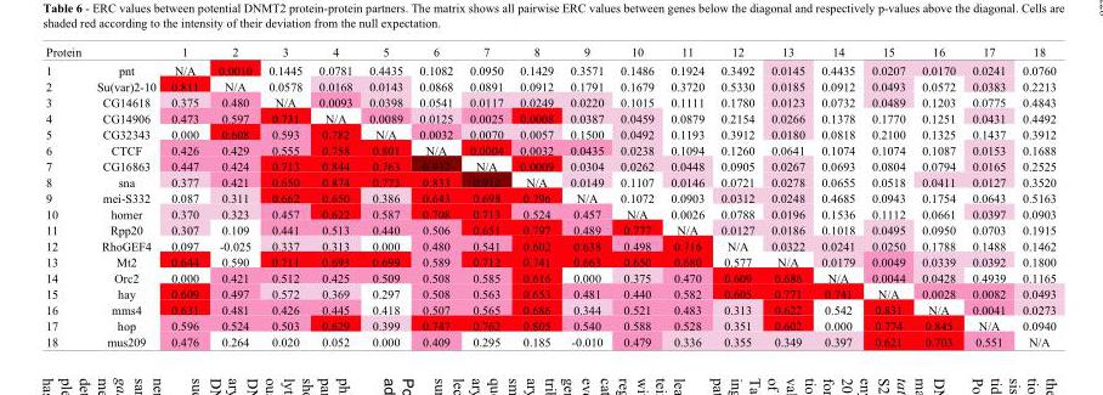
<table><thead><tr><td>Protein</td><td></td><td>1</td><td>2</td><td>3</td><td>4</td><td>5</td><td>6</td><td>7</td><td>8</td><td>9</td><td>10</td><td>11</td><td>12</td><td>13</td><td>14</td><td>15</td><td>16</td><td>17</td><td>18</td></tr></thead><tbody><tr><td>1</td><td>pnt</td><td>N/A</td><td>0.0010</td><td>0.1445</td><td>0.0781</td><td>0.4435</td><td>0.1082</td><td>0.0950</td><td>0.1429</td><td>0.3571</td><td>0.1486</td><td>0.1924</td><td>0.3492</td><td>0.0145</td><td>0.4435</td><td>0.0207</td><td>0.0170</td><td>0.0241</td><td>0.0760</td></tr><tr><td>2</td><td>Su(var)2-10</td><td>0.811</td><td>N/A</td><td>0.0578</td><td>0.0168</td><td>0.0143</td><td>0.0868</td><td>0.0891</td><td>0.0912</td><td>0.1791</td><td>0.1679</td><td>0.3720</td><td>0.5330</td><td>0.0185</td><td>0.0912</td><td>0.0493</td><td>0.0572</td><td>0.0383</td><td>0.2213</td></tr><tr><td>3</td><td>CG14618</td><td>0.375</td><td>0.480</td><td>N/A</td><td>0.0093</td><td>0.0398</td><td>0.0541</td><td>0.0117</td><td>0.0249</td><td>0.0220</td><td>0.1015</td><td>0.1111</td><td>0.1780</td><td>0.0123</td><td>0.0732</td><td>0.0489</td><td>0.1203</td><td>0.0775</td><td>0.4843</td></tr><tr><td>4</td><td>CG14906</td><td>0.473</td><td>0.597</td><td>0.731</td><td>N/A</td><td>0.0089</td><td>0.0125</td><td>0.0025</td><td>0.0008</td><td>0.0387</td><td>0.0459</td><td>0.0879</td><td>0.2154</td><td>0.0266</td><td>0.1378</td><td>0.1770</td><td>0.1251</td><td>0.0431</td><td>0.4492</td></tr><tr><td>5</td><td>CG32343</td><td>0.000</td><td>0.608</td><td>0.593</td><td>0.782</td><td>N/A</td><td>0.0032</td><td>0.0070</td><td>0.0057</td><td>0.1500</td><td>0.0492</td><td>0.1193</td><td>0.3912</td><td>0.0180</td><td>0.0818</td><td>0.2100</td><td>0.1325</td><td>0.1437</td><td>0.3912</td></tr><tr><td>6</td><td>CTCF</td><td>0.426</td><td>0.429</td><td>0.555</td><td>0.758</td><td>0.801</td><td>N/A</td><td>0.0004</td><td>0.0032</td><td>0.0435</td><td>0.0238</td><td>0.1094</td><td>0.1260</td><td>0.0641</td><td>0.1074</td><td>0.1074</td><td>0.1087</td><td>0.0153</td><td>0.1688</td></tr><tr><td>7</td><td>CG16863</td><td>0.447</td><td>0.424</td><td>0.713</td><td>0.844</td><td>0.763</td><td>0.932</td><td>N/A</td><td>0.0009</td><td>0.0304</td><td>0.0262</td><td>0.0448</td><td>0.0905</td><td>0.0267</td><td>0.0693</td><td>0.0804</td><td>0.0794</td><td>0.0165</td><td>0.2525</td></tr><tr><td>8</td><td>sna</td><td>0.377</td><td>0.421</td><td>0.650</td><td>0.874</td><td>0.773</td><td>0.833</td><td>0.912</td><td>N/A</td><td>0.0149</td><td>0.1107</td><td>0.0146</td><td>0.0721</td><td>0.0278</td><td>0.0655</td><td>0.0518</td><td>0.0411</td><td>0.0127</td><td>0.3520</td></tr><tr><td>9</td><td>mei-S332</td><td>0.087</td><td>0.311</td><td>0.662</td><td>0.650</td><td>0.386</td><td>0.643</td><td>0.698</td><td>0.796</td><td>N/A</td><td>0.1072</td><td>0.0903</td><td>0.0312</td><td>0.0248</td><td>0.4685</td><td>0.0943</td><td>0.1754</td><td>0.0643</td><td>0.5163</td></tr><tr><td>10</td><td>homer</td><td>0.370</td><td>0.323</td><td>0.457</td><td>0.622</td><td>0.587</td><td>0.708</td><td>0.713</td><td>0.524</td><td>0.457</td><td>N/A</td><td>0.0026</td><td>0.0788</td><td>0.0196</td><td>0.1536</td><td>0.1112</td><td>0.0661</td><td>0.0397</td><td>0.0903</td></tr><tr><td>11</td><td>Rpp20</td><td>0.307</td><td>0.109</td><td>0.441</td><td>0.513</td><td>0.440</td><td>0.506</td><td>0.651</td><td>0.797</td><td>0.489</td><td>0.777</td><td>N/A</td><td>0.0127</td><td>0.0186</td><td>0.1018</td><td>0.0495</td><td>0.0950</td><td>0.0703</td><td>0.1915</td></tr><tr><td>12</td><td>RhoGEF4</td><td>0.097</td><td>-0.025</td><td>0.337</td><td>0.313</td><td>0.000</td><td>0.480</td><td>0.541</td><td>0.602</td><td>0.638</td><td>0.498</td><td>0.716</td><td>N/A</td><td>0.0322</td><td>0.0241</td><td>0.0250</td><td>0.1788</td><td>0.1488</td><td>0.1462</td></tr><tr><td>13</td><td>Mt2</td><td>0.644</td><td>0.590</td><td>0.711</td><td>0.693</td><td>0.699</td><td>0.589</td><td>0.712</td><td>0.741</td><td>0.663</td><td>0.650</td><td>0.680</td><td>0.577</td><td>N/A</td><td>0.0179</td><td>0.0049</td><td>0.0339</td><td>0.0392</td><td>0.1800</td></tr><tr><td>14</td><td>Orc2</td><td>0.000</td><td>0.421</td><td>0.512</td><td>0.425</td><td>0.509</td><td>0.508</td><td>0.585</td><td>0.616</td><td>0.000</td><td>0.375</td><td>0.470</td><td>0.609</td><td>0.686</td><td>N/A</td><td>0.0044</td><td>0.0428</td><td>0.4939</td><td>0.1165</td></tr><tr><td>15</td><td>hay</td><td>0.609</td><td>0.497</td><td>0.572</td><td>0.369</td><td>0.297</td><td>0.508</td><td>0.563</td><td>0.653</td><td>0.481</td><td>0.440</td><td>0.582</td><td>0.605</td><td>0.771</td><td>0.741</td><td>N/A</td><td>0.0028</td><td>0.0082</td><td>0.0493</td></tr><tr><td>16</td><td>mms4</td><td>0.631</td><td>0.481</td><td>0.426</td><td>0.445</td><td>0.418</td><td>0.507</td><td>0.565</td><td>0.686</td><td>0.344</td><td>0.521</td><td>0.483</td><td>0.313</td><td>0.622</td><td>0.542</td><td>0.831</td><td>N/A</td><td>0.0041</td><td>0.0273</td></tr><tr><td>17</td><td>hop</td><td>0.596</td><td>0.524</td><td>0.503</td><td>0.629</td><td>0.399</td><td>0.747</td><td>0.762</td><td>0.805</td><td>0.540</td><td>0.588</td><td>0.528</td><td>0.351</td><td>0.602</td><td>0.000</td><td>0.774</td><td>0.845</td><td>N/A</td><td>0.0940</td></tr><tr><td>18</td><td>mus209</td><td>0.476</td><td>0.264</td><td>0.020</td><td>0.052</td><td>0.000</td><td>0.409</td><td>0.295</td><td>0.185</td><td>-0.010</td><td>0.479</td><td>0.336</td><td>0.355</td><td>0.349</td><td>0.397</td><td>0.621</td><td>0.703</td><td>0.551</td><td>N/A</td></tr></tbody></table>